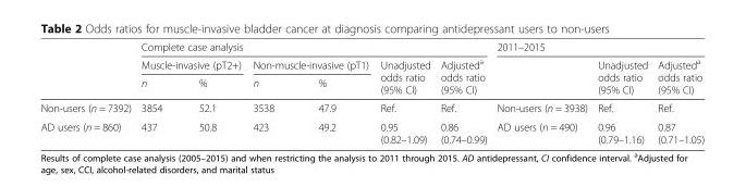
<table><thead><tr><td rowspan="3"></td><td colspan="6">Complete case analysis</td><td colspan="3">2011–2015</td></tr><tr><td colspan="2">Muscle-invasive (pT2+)</td><td colspan="2">Non-muscle-invasive (pT1)</td><td rowspan="2">Unadjusted odds ratio (95% CI)</td><td rowspan="2">Adjusted<sup>a</sup> odds ratio (95% CI)</td><td rowspan="2"></td><td rowspan="2">Unadjusted odds ratio (95% CI)</td><td rowspan="2">Adjusted<sup>a</sup> odds ratio (95% CI)</td></tr><tr><td>n</td><td>%</td><td>n</td><td>%</td></tr></thead><tbody><tr><td>Non-users (n = 7392)</td><td>3854</td><td>52.1</td><td>3538</td><td>47.9</td><td>Ref.</td><td>Ref.</td><td>Non-users (n = 3938)</td><td>Ref.</td><td>Ref.</td></tr><tr><td>AD users (n = 860)</td><td>437</td><td>50.8</td><td>423</td><td>49.2</td><td>0.95 (0.82–1.09)</td><td>0.86 (0.74–0.99)</td><td>AD users (n = 490)</td><td>0.96 (0.79–1.16)</td><td>0.87 (0.71–1.05)</td></tr></tbody></table>